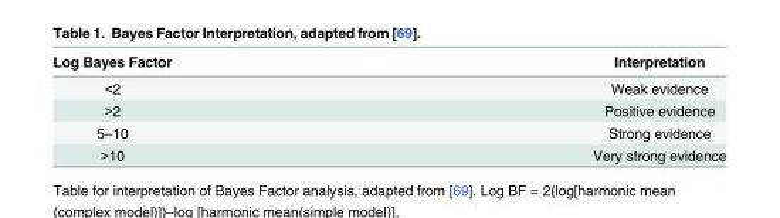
<table><thead><tr><td>Log Bayes Factor</td><td>Interpretation</td></tr></thead><tbody><tr><td>&lt;2</td><td>Weak evidence</td></tr><tr><td>&gt;2</td><td>Positive evidence</td></tr><tr><td>5–10</td><td>Strong evidence</td></tr><tr><td>&gt;10</td><td>Very strong evidence</td></tr></tbody></table>